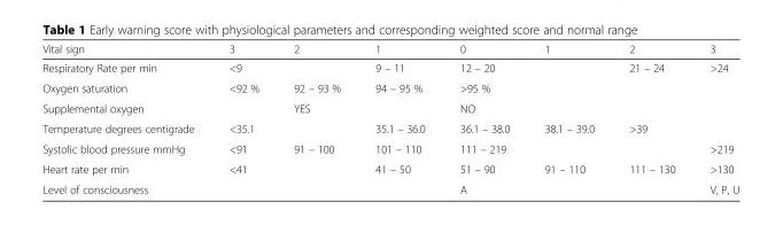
<table><thead><tr><td>Vital sign</td><td>3</td><td>2</td><td>1</td><td>0</td><td>1</td><td>2</td><td>3</td></tr></thead><tbody><tr><td>Respiratory Rate per min</td><td>&lt;9</td><td></td><td>9 – 11</td><td>12 – 20</td><td></td><td>21 – 24</td><td>&gt;24</td></tr><tr><td>Oxygen saturation</td><td>&lt;92 %</td><td>92 – 93 %</td><td>94 – 95 %</td><td>&gt;95 %</td><td></td><td></td><td></td></tr><tr><td>Supplemental oxygen</td><td></td><td>YES</td><td></td><td>NO</td><td></td><td></td><td></td></tr><tr><td>Temperature degrees centigrade</td><td>&lt;35.1</td><td></td><td>35.1 – 36.0</td><td>36.1 – 38.0</td><td>38.1 – 39.0</td><td>&gt;39</td><td></td></tr><tr><td>Systolic blood pressure mmHg</td><td>&lt;91</td><td>91 – 100</td><td>101 – 110</td><td>111 – 219</td><td></td><td></td><td>&gt;219</td></tr><tr><td>Heart rate per min</td><td>&lt;41</td><td></td><td>41 – 50</td><td>51 – 90</td><td>91 – 110</td><td>111 – 130</td><td>&gt;130</td></tr><tr><td>Level of consciousness</td><td></td><td></td><td></td><td>A</td><td></td><td></td><td>V, P, U</td></tr></tbody></table>